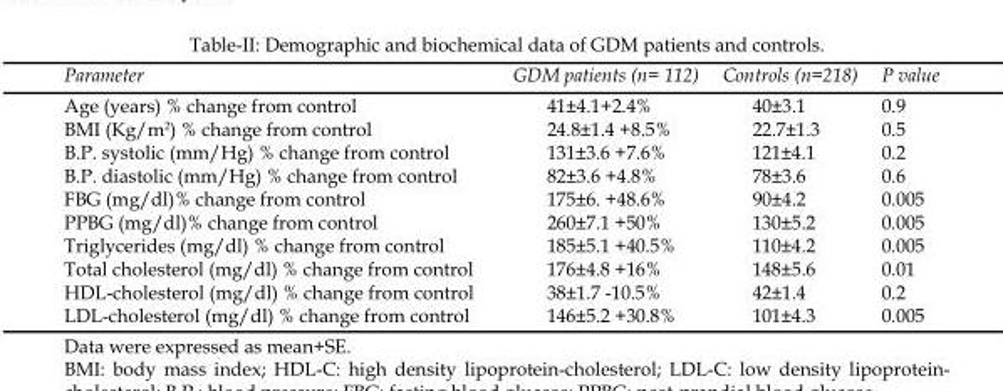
<table><thead><tr><td>Parameter</td><td>GDM patients (n= 112)</td><td>Controls (n=218)</td><td>P value</td></tr></thead><tbody><tr><td>Age (years) % change from control</td><td>41±4.1+2.4%</td><td>40±3.1</td><td>0.9</td></tr><tr><td>BMI (Kg/m<sup>2</sup>) % change from control</td><td>24.8±1.4 +8.5%</td><td>22.7±1.3</td><td>0.5</td></tr><tr><td>B.P. systolic (mm/Hg) % change from control</td><td>131±3.6 +7.6%</td><td>121±4.1</td><td>0.2</td></tr><tr><td>B.P. diastolic (mm/Hg) % change from control</td><td>82±3.6 +4.8%</td><td>78±3.6</td><td>0.6</td></tr><tr><td>FBG (mg/dl)% change from control</td><td>175±6. +48.6%</td><td>90±4.2</td><td>0.005</td></tr><tr><td>PPBG (mg/dl)% change from control</td><td>260±7.1 +50%</td><td>130±5.2</td><td>0.005</td></tr><tr><td>Triglycerides (mg/dl) % change from control</td><td>185±5.1 +40.5%</td><td>110±4.2</td><td>0.005</td></tr><tr><td>Total cholesterol (mg/dl) % change from control</td><td>176±4.8 +16%</td><td>148±5.6</td><td>0.01</td></tr><tr><td>HDL-cholesterol (mg/dl) % change from control</td><td>38±1.7 -10.5%</td><td>42±1.4</td><td>0.2</td></tr><tr><td>LDL-cholesterol (mg/dl) % change from control</td><td>146±5.2 +30.8%</td><td>101±4.3</td><td>0.005</td></tr></tbody></table>